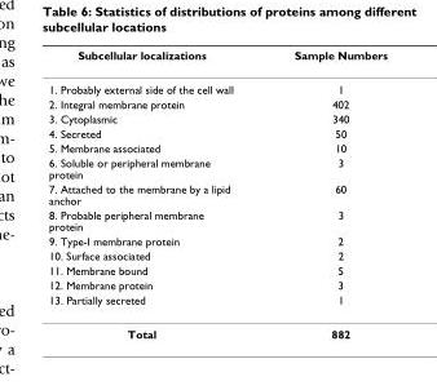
<table><thead><tr><td>Subcellular localizations</td><td>Sample Numbers</td></tr></thead><tbody><tr><td>1. Probably external side of the cell wall</td><td>1</td></tr><tr><td>2. Integral membrane protein</td><td>402</td></tr><tr><td>3. Cytoplasmic</td><td>340</td></tr><tr><td>4. Secreted</td><td>50</td></tr><tr><td>5. Membrane associated</td><td>10</td></tr><tr><td>6. Soluble or peripheral membrane protein</td><td>3</td></tr><tr><td>7. Attached to the membrane by a lipid anchor</td><td>60</td></tr><tr><td>8. Probable peripheral membrane protein</td><td>3</td></tr><tr><td>9. Type-I membrane protein</td><td>2</td></tr><tr><td>10. Surface associated</td><td>2</td></tr><tr><td>11. Membrane bound</td><td>5</td></tr><tr><td>12. Membrane protein</td><td>3</td></tr><tr><td>13. Partially secreted</td><td>1</td></tr><tr><td>Total</td><td>882</td></tr></tbody></table>